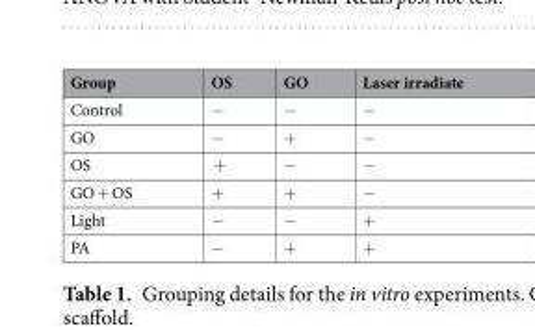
<table><thead><tr><td>Group</td><td>OS</td><td>GO</td><td>Laser irradiate</td></tr></thead><tbody><tr><td>Control</td><td>−</td><td>−</td><td>−</td></tr><tr><td>GO</td><td>−</td><td>+</td><td>−</td></tr><tr><td>OS</td><td>+</td><td>−</td><td>−</td></tr><tr><td>GO + OS</td><td>+</td><td>+</td><td>−</td></tr><tr><td>Light</td><td>−</td><td>−</td><td>+</td></tr><tr><td>PA</td><td>−</td><td>+</td><td>+</td></tr></tbody></table>